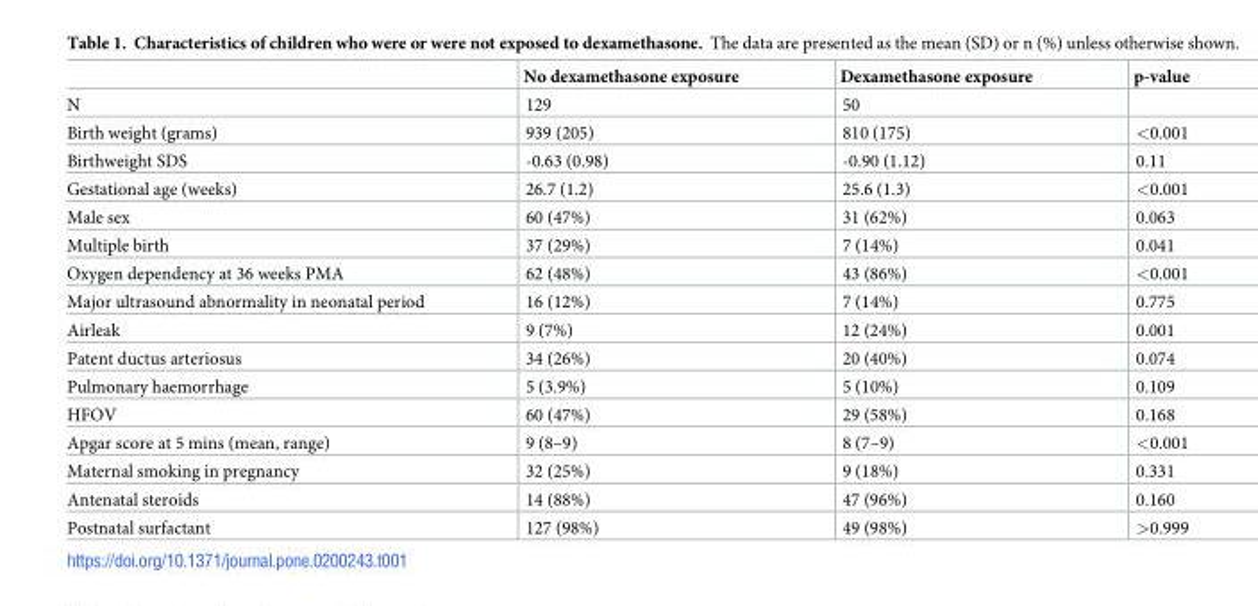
<table><thead><tr><td></td><td>No dexamethasone exposure</td><td>Dexamethasone exposure</td><td>p-value</td></tr></thead><tbody><tr><td>N</td><td>129</td><td>50</td><td></td></tr><tr><td>Birth weight (grams)</td><td>939 (205)</td><td>810 (175)</td><td>&lt;0.001</td></tr><tr><td>Birthweight SDS</td><td>-0.63 (0.98)</td><td>-0.90 (1.12)</td><td>0.11</td></tr><tr><td>Gestational age (weeks)</td><td>26.7 (1.2)</td><td>25.6 (1.3)</td><td>&lt;0.001</td></tr><tr><td>Male sex</td><td>60 (47%)</td><td>31 (62%)</td><td>0.063</td></tr><tr><td>Multiple birth</td><td>37 (29%)</td><td>7 (14%)</td><td>0.041</td></tr><tr><td>Oxygen dependency at 36 weeks PMA</td><td>62 (48%)</td><td>43 (86%)</td><td>&lt;0.001</td></tr><tr><td>Major ultrasound abnormality in neonatal period</td><td>16 (12%)</td><td>7 (14%)</td><td>0.775</td></tr><tr><td>Airleak</td><td>9 (7%)</td><td>12 (24%)</td><td>0.001</td></tr><tr><td>Patent ductus arteriosus</td><td>34 (26%)</td><td>20 (40%)</td><td>0.074</td></tr><tr><td>Pulmonary haemorrhage</td><td>5 (3.9%)</td><td>5 (10%)</td><td>0.109</td></tr><tr><td>HFOV</td><td>60 (47%)</td><td>29 (58%)</td><td>0.168</td></tr><tr><td>Apgar score at 5 mins (mean, range)</td><td>9 (8–9)</td><td>8 (7–9)</td><td>&lt;0.001</td></tr><tr><td>Maternal smoking in pregnancy</td><td>32 (25%)</td><td>9 (18%)</td><td>0.331</td></tr><tr><td>Antenatal steroids</td><td>14 (88%)</td><td>47 (96%)</td><td>0.160</td></tr><tr><td>Postnatal surfactant</td><td>127 (98%)</td><td>49 (98%)</td><td>&gt;0.999</td></tr></tbody></table>